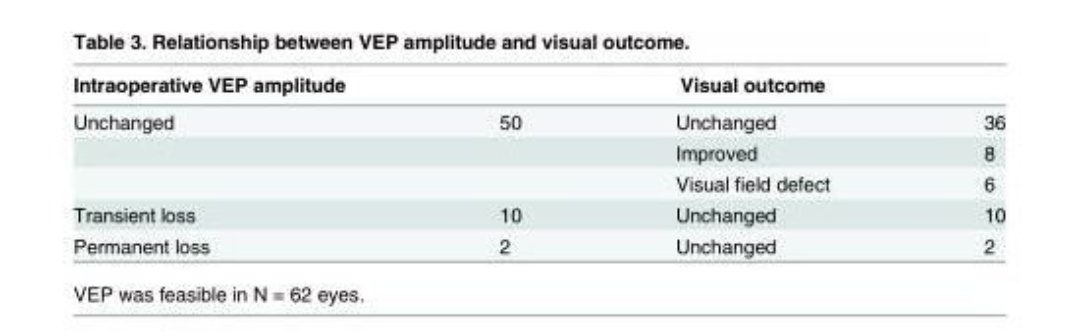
<table><thead><tr><td>Intraoperative VEP amplitude</td><td></td><td>Visual outcome</td><td></td></tr></thead><tbody><tr><td rowspan="3">Unchanged</td><td>50</td><td>Unchanged</td><td>36</td></tr><tr><td></td><td>Improved</td><td>8</td></tr><tr><td></td><td>Visual field defect</td><td>6</td></tr><tr><td>Transient loss</td><td>10</td><td>Unchanged</td><td>10</td></tr><tr><td>Permanent loss</td><td>2</td><td>Unchanged</td><td>2</td></tr></tbody></table>